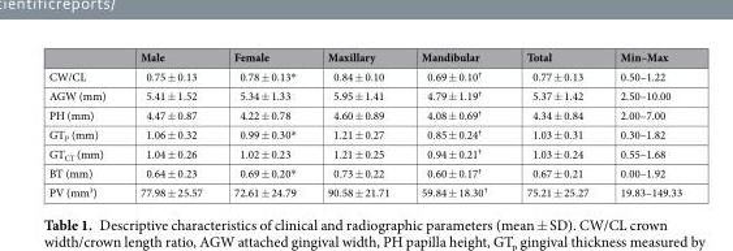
<table><thead><tr><td></td><td>Male</td><td>Female</td><td>Maxillary</td><td>Mandibular</td><td>Total</td><td>Min–Max</td></tr></thead><tbody><tr><td>CW/CL</td><td>0.75 ± 0.13</td><td>0.78 ± 0.13*</td><td>0.84 ± 0.10</td><td>0.69 ± 0.10<sup>†</sup></td><td>0.77 ± 0.13</td><td>0.50–1.22</td></tr><tr><td>AGW (mm)</td><td>5.41 ± 1.52</td><td>5.34 ± 1.33</td><td>5.95 ± 1.41</td><td>4.79 ± 1.19<sup>†</sup></td><td>5.37 ± 1.42</td><td>2.50–10.00</td></tr><tr><td>PH (mm)</td><td>4.47 ± 0.87</td><td>4.22 ± 0.78</td><td>4.60 ± 0.89</td><td>4.08 ± 0.69<sup>†</sup></td><td>4.34 ± 0.84</td><td>2.00–7.00</td></tr><tr><td>GT<sub>P</sub> (mm)</td><td>1.06 ± 0.32</td><td>0.99 ± 0.30*</td><td>1.21 ± 0.27</td><td>0.85 ± 0.24<sup>†</sup></td><td>1.03 ± 0.31</td><td>0.30–1.82</td></tr><tr><td>GT<sub>CT</sub> (mm)</td><td>1.04 ± 0.26</td><td>1.02 ± 0.23</td><td>1.21 ± 0.25</td><td>0.94 ± 0.21<sup>†</sup></td><td>1.03 ± 0.24</td><td>0.55–1.68</td></tr><tr><td>BT (mm)</td><td>0.64 ± 0.23</td><td>0.69 ± 0.20*</td><td>0.73 ± 0.22</td><td>0.60 ± 0.17<sup>†</sup></td><td>0.67 ± 0.21</td><td>0.00–1.92</td></tr><tr><td>PV (mm<sup>3</sup>)</td><td>77.98 ± 25.57</td><td>72.61 ± 24.79</td><td>90.58 ± 21.71</td><td>59.84 ± 18.30<sup>†</sup></td><td>75.21 ± 25.27</td><td>19.83–149.33</td></tr></tbody></table>